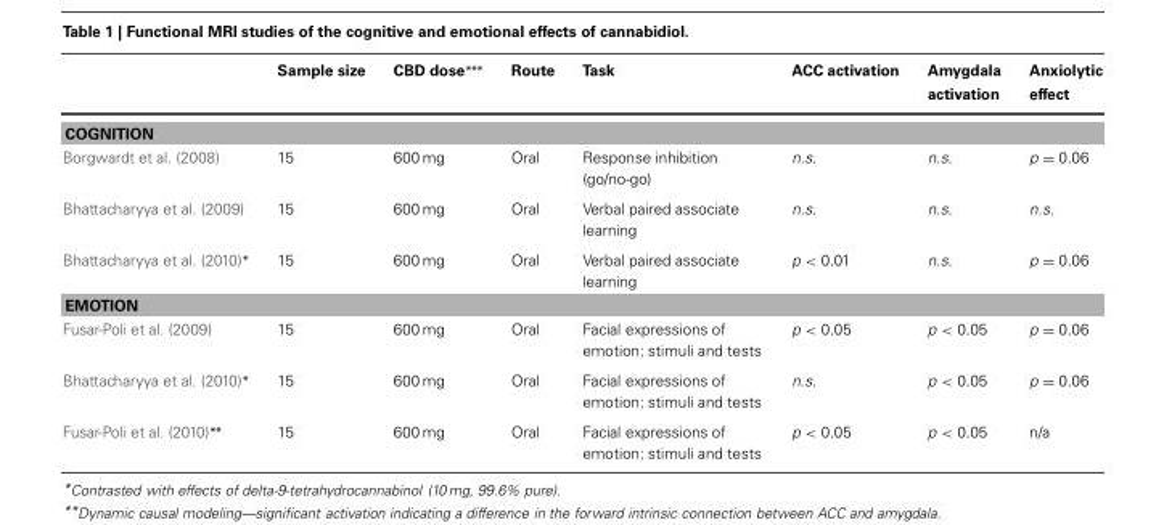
<table><thead><tr><td></td><td>Sample size</td><td>CBD dose***</td><td>Route</td><td>Task</td><td>ACC activation</td><td>Amygdala activation</td><td>Anxiolytic effect</td></tr></thead><tbody><tr><td colspan="8">COGNITION</td></tr><tr><td>Borgwardt et al. (2008)</td><td>15</td><td>600 mg</td><td>Oral</td><td>Response inhibition (go/no-go)</td><td>n.s.</td><td>n.s.</td><td>p = 0.06</td></tr><tr><td>Bhattacharyya et al. (2009)</td><td>15</td><td>600 mg</td><td>Oral</td><td>Verbal paired associate learning</td><td>n.s.</td><td>n.s.</td><td>n.s.</td></tr><tr><td>Bhattacharyya et al. (2010)*</td><td>15</td><td>600 mg</td><td>Oral</td><td>Verbal paired associate learning</td><td>p &lt; 0.01</td><td>n.s.</td><td>p = 0.06</td></tr><tr><td colspan="8">EMOTION</td></tr><tr><td>Fusar-Poli et al. (2009)</td><td>15</td><td>600 mg</td><td>Oral</td><td>Facial expressions of emotion: stimuli and tests</td><td>p &lt; 0.05</td><td>p &lt; 0.05</td><td>p = 0.06</td></tr><tr><td>Bhattacharyya et al. (2010)*</td><td>15</td><td>600 mg</td><td>Oral</td><td>Facial expressions of emotion: stimuli and tests</td><td>n.s.</td><td>p &lt; 0.05</td><td>p = 0.06</td></tr><tr><td>Fusar-Poli et al. (2010)**</td><td>15</td><td>600 mg</td><td>Oral</td><td>Facial expressions of emotion: stimuli and tests</td><td>p &lt; 0.05</td><td>p &lt; 0.05</td><td>n/a</td></tr></tbody></table>